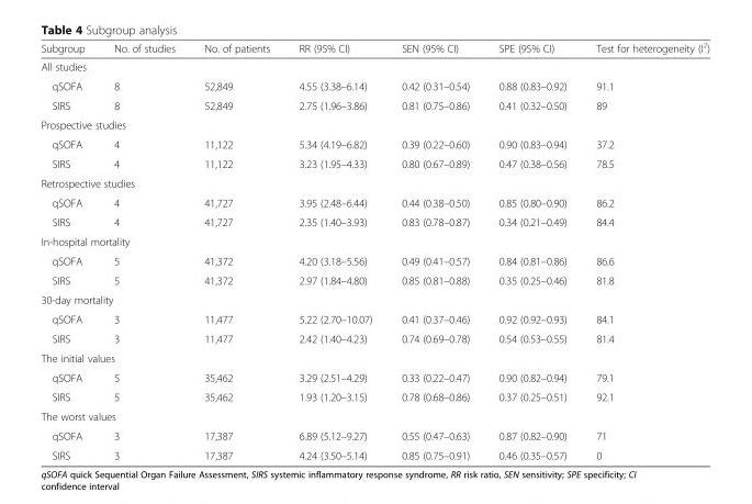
<table><thead><tr><td>Subgroup</td><td>No. of studies</td><td>No. of patients</td><td>RR (95% CI)</td><td>SEN (95% CI)</td><td>SPE (95% CI)</td><td>Test for heterogeneity (I<sup>2</sup>)</td></tr></thead><tbody><tr><td colspan="7">All studies</td></tr><tr><td>qSOFA</td><td>8</td><td>52,849</td><td>4.55 (3.38–6.14)</td><td>0.42 (0.31–0.54)</td><td>0.88 (0.83–0.92)</td><td>91.1</td></tr><tr><td>SIRS</td><td>8</td><td>52,849</td><td>2.75 (1.96–3.86)</td><td>0.81 (0.75–0.86)</td><td>0.41 (0.32–0.50)</td><td>89</td></tr><tr><td colspan="7">Prospective studies</td></tr><tr><td>qSOFA</td><td>4</td><td>11,122</td><td>5.34 (4.19–6.82)</td><td>0.39 (0.22–0.60)</td><td>0.90 (0.83–0.94)</td><td>37.2</td></tr><tr><td>SIRS</td><td>4</td><td>11,122</td><td>3.23 (1.95–4.33)</td><td>0.80 (0.67–0.89)</td><td>0.47 (0.38–0.56)</td><td>78.5</td></tr><tr><td colspan="7">Retrospective studies</td></tr><tr><td>qSOFA</td><td>4</td><td>41,727</td><td>3.95 (2.48–6.44)</td><td>0.44 (0.38–0.50)</td><td>0.85 (0.80–0.90)</td><td>86.2</td></tr><tr><td>SIRS</td><td>4</td><td>41,727</td><td>2.35 (1.40–3.93)</td><td>0.83 (0.78–0.87)</td><td>0.34 (0.21–0.49)</td><td>84.4</td></tr><tr><td colspan="7">In-hospital mortality</td></tr><tr><td>qSOFA</td><td>5</td><td>41,372</td><td>4.20 (3.18–5.56)</td><td>0.49 (0.41–0.57)</td><td>0.84 (0.81–0.86)</td><td>86.6</td></tr><tr><td>SIRS</td><td>5</td><td>41,372</td><td>2.97 (1.84–4.80)</td><td>0.85 (0.81–0.88)</td><td>0.35 (0.25–0.46)</td><td>81.8</td></tr><tr><td colspan="7">30-day mortality</td></tr><tr><td>qSOFA</td><td>3</td><td>11,477</td><td>5.22 (2.70–10.07)</td><td>0.41 (0.37–0.46)</td><td>0.92 (0.92–0.93)</td><td>84.1</td></tr><tr><td>SIRS</td><td>3</td><td>11,477</td><td>2.42 (1.40–4.23)</td><td>0.74 (0.69–0.78)</td><td>0.54 (0.53–0.55)</td><td>81.4</td></tr><tr><td colspan="7">The initial values</td></tr><tr><td>qSOFA</td><td>5</td><td>35,462</td><td>3.29 (2.51–4.29)</td><td>0.33 (0.22–0.47)</td><td>0.90 (0.82–0.94)</td><td>79.1</td></tr><tr><td>SIRS</td><td>5</td><td>35,462</td><td>1.93 (1.20–3.15)</td><td>0.78 (0.68–0.86)</td><td>0.37 (0.25–0.51)</td><td>92.1</td></tr><tr><td colspan="7">The worst values</td></tr><tr><td>qSOFA</td><td>3</td><td>17,387</td><td>6.89 (5.12–9.27)</td><td>0.55 (0.47–0.63)</td><td>0.87 (0.82–0.90)</td><td>71</td></tr><tr><td>SIRS</td><td>3</td><td>17,387</td><td>4.24 (3.50–5.14)</td><td>0.85 (0.75–0.91)</td><td>0.46 (0.35–0.57)</td><td>0</td></tr></tbody></table>